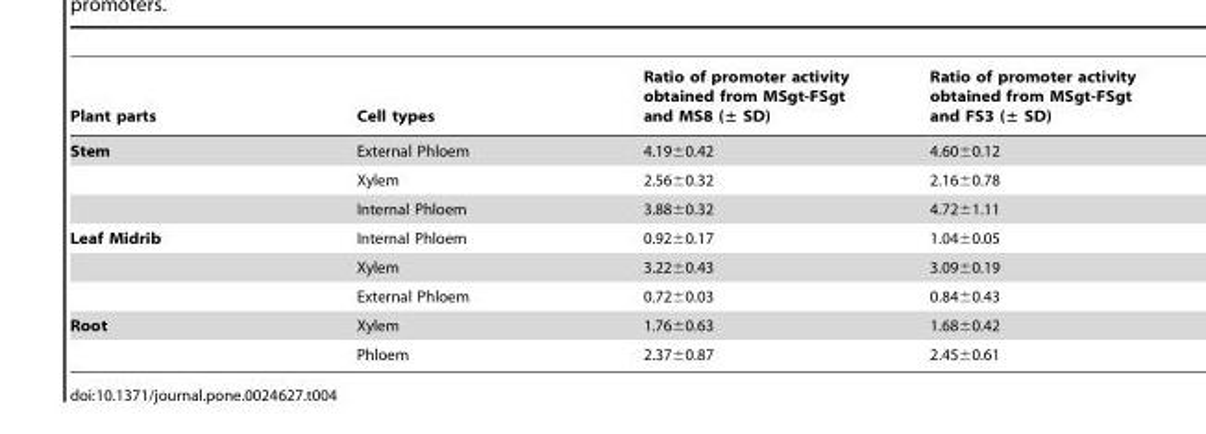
<table><thead><tr><td>Plant parts</td><td>Cell types</td><td>Ratio of promoter activity obtained from MSgt-FSgt and MS8 (± SD)</td><td>Ratio of promoter activity obtained from MSgt-FSgt and FS3 (± SD)</td></tr></thead><tbody><tr><td rowspan="3">Stem</td><td>External Phloem</td><td>4.19±0.42</td><td>4.60±0.12</td></tr><tr><td>Xylem</td><td>2.56±0.32</td><td>2.16±0.78</td></tr><tr><td>Internal Phloem</td><td>3.88±0.32</td><td>4.72±1.11</td></tr><tr><td rowspan="3">Leaf Midrib</td><td>Internal Phloem</td><td>0.92±0.17</td><td>1.04±0.05</td></tr><tr><td>Xylem</td><td>3.22±0.43</td><td>3.09±0.19</td></tr><tr><td>External Phloem</td><td>0.72±0.03</td><td>0.84±0.43</td></tr><tr><td rowspan="2">Root</td><td>Xylem</td><td>1.76±0.63</td><td>1.68±0.42</td></tr><tr><td>Phloem</td><td>2.37±0.87</td><td>2.45±0.61</td></tr></tbody></table>